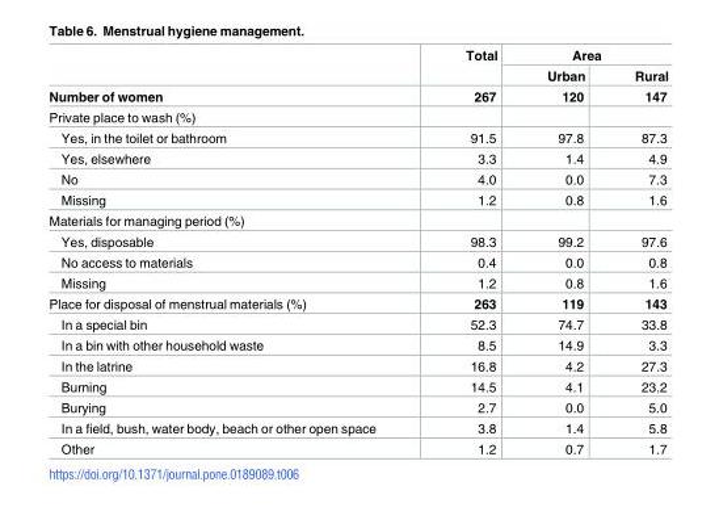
<table><thead><tr><td rowspan="2"></td><td rowspan="2">Total</td><td colspan="2">Area</td></tr><tr><td>Urban</td><td>Rural</td></tr></thead><tbody><tr><td>Number of women</td><td>267</td><td>120</td><td>147</td></tr><tr><td colspan="4">Private place to wash (%)</td></tr><tr><td>Yes, in the toilet or bathroom</td><td>91.5</td><td>97.8</td><td>87.3</td></tr><tr><td>Yes, elsewhere</td><td>3.3</td><td>1.4</td><td>4.9</td></tr><tr><td>No</td><td>4.0</td><td>0.0</td><td>7.3</td></tr><tr><td>Missing</td><td>1.2</td><td>0.8</td><td>1.6</td></tr><tr><td colspan="4">Materials for managing period (%)</td></tr><tr><td>Yes, disposable</td><td>98.3</td><td>99.2</td><td>97.6</td></tr><tr><td>No access to materials</td><td>0.4</td><td>0.0</td><td>0.8</td></tr><tr><td>Missing</td><td>1.2</td><td>0.8</td><td>1.6</td></tr><tr><td>Place for disposal of menstrual materials (%)</td><td>263</td><td>119</td><td>143</td></tr><tr><td>In a special bin</td><td>52.3</td><td>74.7</td><td>33.8</td></tr><tr><td>In a bin with other household waste</td><td>8.5</td><td>14.9</td><td>3.3</td></tr><tr><td>In the latrine</td><td>16.8</td><td>4.2</td><td>27.3</td></tr><tr><td>Burning</td><td>14.5</td><td>4.1</td><td>23.2</td></tr><tr><td>Burying</td><td>2.7</td><td>0.0</td><td>5.0</td></tr><tr><td>In a field, bush, water body, beach or other open space</td><td>3.8</td><td>1.4</td><td>5.8</td></tr><tr><td>Other</td><td>1.2</td><td>0.7</td><td>1.7</td></tr></tbody></table>